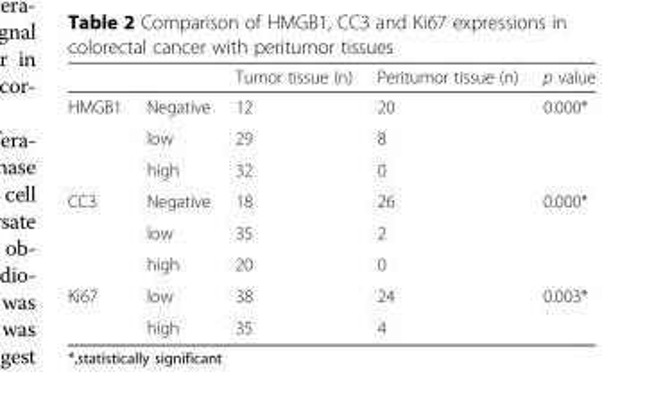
<table><thead><tr><td></td><td></td><td>Tumor tissue (n)</td><td>Peritumor tissue (n)</td><td>p value</td></tr></thead><tbody><tr><td rowspan="3">HMGB1</td><td>Negative</td><td>12</td><td>20</td><td>0.000*</td></tr><tr><td>low</td><td>29</td><td>8</td><td></td></tr><tr><td>high</td><td>32</td><td>0</td><td></td></tr><tr><td rowspan="3">CC3</td><td>Negative</td><td>18</td><td>26</td><td>0.000*</td></tr><tr><td>low</td><td>35</td><td>2</td><td></td></tr><tr><td>high</td><td>20</td><td>0</td><td></td></tr><tr><td rowspan="2">Ki67</td><td>low</td><td>38</td><td>24</td><td>0.003*</td></tr><tr><td>high</td><td>35</td><td>4</td><td></td></tr></tbody></table>